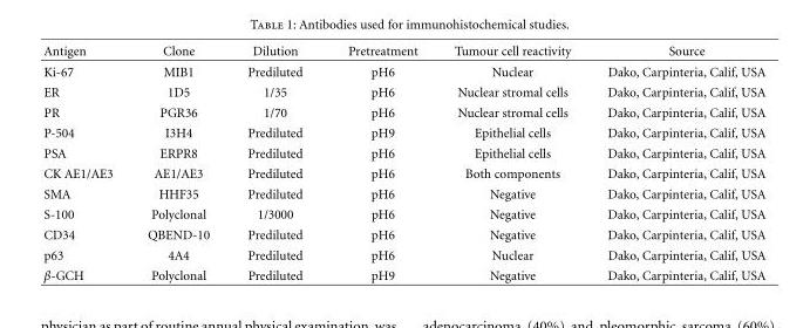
<table><thead><tr><td>Antigen</td><td>Clone</td><td>Dilution</td><td>Pretreatment</td><td>Tumour cell reactivity</td><td>Source</td></tr></thead><tbody><tr><td>Ki-67</td><td>MIB1</td><td>Prediluted</td><td>pH6</td><td>Nuclear</td><td>Dako, Carpinteria, Calif, USA</td></tr><tr><td>ER</td><td>1D5</td><td>1/35</td><td>pH6</td><td>Nuclear stromal cells</td><td>Dako, Carpinteria, Calif, USA</td></tr><tr><td>PR</td><td>PGR36</td><td>1/70</td><td>pH6</td><td>Nuclear stromal cells</td><td>Dako, Carpinteria, Calif, USA</td></tr><tr><td>P-504</td><td>I3H4</td><td>Prediluted</td><td>pH9</td><td>Epithelial cells</td><td>Dako, Carpinteria, Calif, USA</td></tr><tr><td>PSA</td><td>ERPR8</td><td>Prediluted</td><td>pH6</td><td>Epithelial cells</td><td>Dako, Carpinteria, Calif, USA</td></tr><tr><td>CK AE1/AE3</td><td>AE1/AE3</td><td>Prediluted</td><td>pH6</td><td>Both components</td><td>Dako, Carpinteria, Calif, USA</td></tr><tr><td>SMA</td><td>HHF35</td><td>Prediluted</td><td>pH6</td><td>Negative</td><td>Dako, Carpinteria, Calif, USA</td></tr><tr><td>S-100</td><td>Polyclonal</td><td>1/3000</td><td>pH6</td><td>Negative</td><td>Dako, Carpinteria, Calif, USA</td></tr><tr><td>CD34</td><td>QBEND-10</td><td>Prediluted</td><td>pH6</td><td>Negative</td><td>Dako, Carpinteria, Calif, USA</td></tr><tr><td>p63</td><td>4A4</td><td>Prediluted</td><td>pH6</td><td>Nuclear</td><td>Dako, Carpinteria, Calif, USA</td></tr><tr><td>β-GCH</td><td>Polyclonal</td><td>Prediluted</td><td>pH9</td><td>Negative</td><td>Dako, Carpinteria, Calif, USA</td></tr></tbody></table>